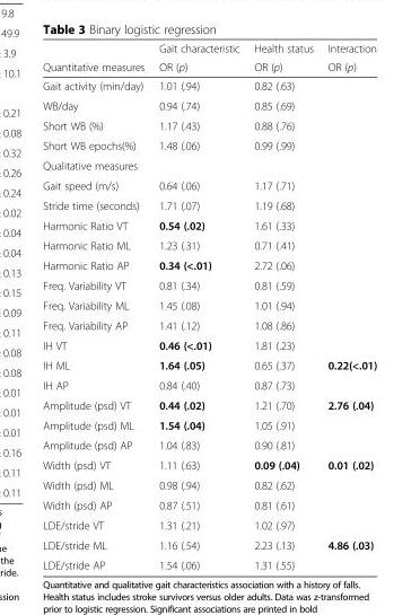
<table><thead><tr><td rowspan="2">Quantitative measures</td><td rowspan="2">Gait characteristic OR (p)</td><td rowspan="2">Health status OR (p)</td><td rowspan="2">Interaction OR (p)</td></tr><tr></tr></thead><tbody><tr><td>Gait activity (min/day)</td><td>1.01 (.94)</td><td>0.82 (.63)</td><td></td></tr><tr><td>WB/day</td><td>0.94 (.74)</td><td>0.85 (.69)</td><td></td></tr><tr><td>Short WB (%)</td><td>1.17 (.43)</td><td>0.88 (.76)</td><td></td></tr><tr><td>Short WB epochs(%)</td><td>1.48 (.06)</td><td>0.99 (.99)</td><td></td></tr><tr><td colspan="4">Qualitative measures</td></tr><tr><td>Gait speed (m/s)</td><td>0.64 (.06)</td><td>1.17 (.71)</td><td></td></tr><tr><td>Stride time (seconds)</td><td>1.71 (.07)</td><td>1.19 (.68)</td><td></td></tr><tr><td>Harmonic Ratio VT</td><td>0.54 (.02)</td><td>1.61 (.33)</td><td></td></tr><tr><td>Harmonic Ratio ML</td><td>1.23 (.31)</td><td>0.71 (.41)</td><td></td></tr><tr><td>Harmonic Ratio AP</td><td>0.34 (&lt;.01)</td><td>2.72 (.06)</td><td></td></tr><tr><td>Freq. Variability VT</td><td>0.81 (.34)</td><td>0.81 (.59)</td><td></td></tr><tr><td>Freq. Variability ML</td><td>1.45 (.08)</td><td>1.01 (.94)</td><td></td></tr><tr><td>Freq. Variability AP</td><td>1.41 (.12)</td><td>1.08 (.86)</td><td></td></tr><tr><td>IH VT</td><td>0.46 (&lt;.01)</td><td>1.81 (.23)</td><td></td></tr><tr><td>IH ML</td><td>1.64 (.05)</td><td>0.65 (.37)</td><td>0.22(&lt;.01)</td></tr><tr><td>IH AP</td><td>0.84 (.40)</td><td>0.87 (.73)</td><td></td></tr><tr><td>Amplitude (psd) VT</td><td>0.44 (.02)</td><td>1.21 (.70)</td><td>2.76 (.04)</td></tr><tr><td>Amplitude (psd) ML</td><td>1.54 (.04)</td><td>1.05 (.91)</td><td></td></tr><tr><td>Amplitude (psd) AP</td><td>1.04 (.83)</td><td>0.90 (.81)</td><td></td></tr><tr><td>Width (psd) VT</td><td>1.11 (.63)</td><td>0.09 (.04)</td><td>0.01 (.02)</td></tr><tr><td>Width (psd) ML</td><td>0.98 (.94)</td><td>0.82 (.62)</td><td></td></tr><tr><td>Width (psd) AP</td><td>0.87 (.51)</td><td>0.81 (.61)</td><td></td></tr><tr><td>LDE/stride VT</td><td>1.31 (.21)</td><td>1.02 (.97)</td><td></td></tr><tr><td>LDE/stride ML</td><td>1.16 (.54)</td><td>2.23 (.13)</td><td>4.86 (.03)</td></tr><tr><td>LDE/stride AP</td><td>1.54 (.06)</td><td>1.31 (.55)</td><td></td></tr></tbody></table>